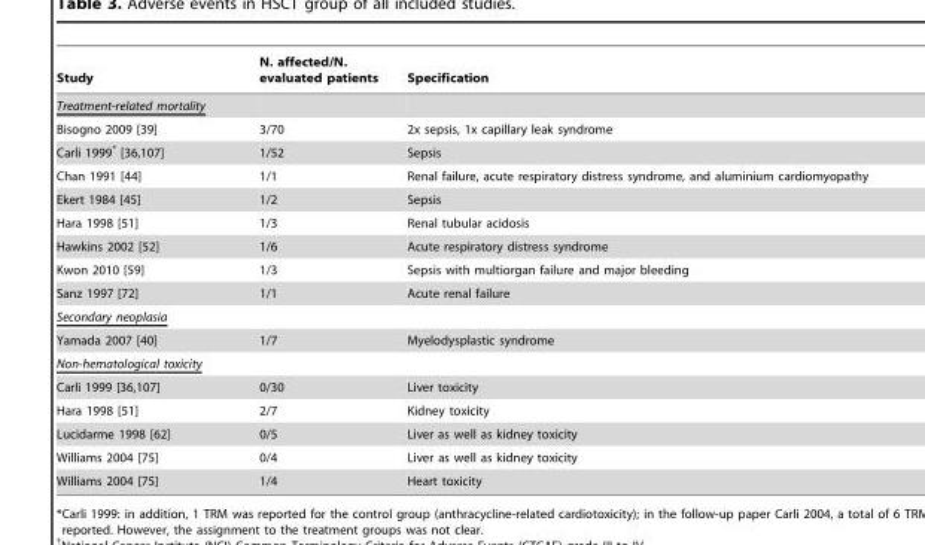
<table><thead><tr><td>Study</td><td>N. affected/N. evaluated patients</td><td>Specification</td></tr></thead><tbody><tr><td colspan="3">Treatment-related mortality</td></tr><tr><td>Bisogno 2009 [39]</td><td>3/70</td><td>2x sepsis, 1x capillary leak syndrome</td></tr><tr><td>Carli 1999* [36,107]</td><td>1/52</td><td>Sepsis</td></tr><tr><td>Chan 1991 [44]</td><td>1/1</td><td>Renal failure, acute respiratory distress syndrome, and aluminium cardiomyopathy</td></tr><tr><td>Ekert 1984 [45]</td><td>1/2</td><td>Sepsis</td></tr><tr><td>Hara 1998 [51]</td><td>1/3</td><td>Renal tubular acidosis</td></tr><tr><td>Hawkins 2002 [52]</td><td>1/6</td><td>Acute respiratory distress syndrome</td></tr><tr><td>Kwon 2010 [59]</td><td>1/3</td><td>Sepsis with multiorgan failure and major bleeding</td></tr><tr><td>Sanz 1997 [72]</td><td>1/1</td><td>Acute renal failure</td></tr><tr><td colspan="3">Secondary neoplasia</td></tr><tr><td>Yamada 2007 [40]</td><td>1/7</td><td>Myelodysplastic syndrome</td></tr><tr><td colspan="3">Non-hematological toxicity</td></tr><tr><td>Carli 1999 [36,107]</td><td>0/30</td><td>Liver toxicity</td></tr><tr><td>Hara 1998 [51]</td><td>2/7</td><td>Kidney toxicity</td></tr><tr><td>Lucidarme 1998 [62]</td><td>0/5</td><td>Liver as well as kidney toxicity</td></tr><tr><td>Williams 2004 [75]</td><td>0/4</td><td>Liver as well as kidney toxicity</td></tr><tr><td>Williams 2004 [75]</td><td>1/4</td><td>Heart toxicity</td></tr></tbody></table>